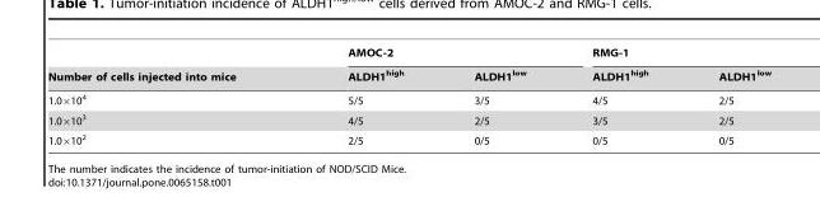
<table><thead><tr><td rowspan="2">Number of cells injected into mice</td><td colspan="2">AMOC-2</td><td colspan="2">RMG-1</td></tr><tr><td>ALDH1<sup>high</sup></td><td>ALDH1<sup>low</sup></td><td>ALDH1<sup>high</sup></td><td>ALDH1<sup>low</sup></td></tr></thead><tbody><tr><td>1.0×10<sup>4</sup></td><td>5/5</td><td>3/5</td><td>4/5</td><td>2/5</td></tr><tr><td>1.0×10<sup>3</sup></td><td>4/5</td><td>2/5</td><td>3/5</td><td>2/5</td></tr><tr><td>1.0×10<sup>2</sup></td><td>2/5</td><td>0/5</td><td>0/5</td><td>0/5</td></tr></tbody></table>